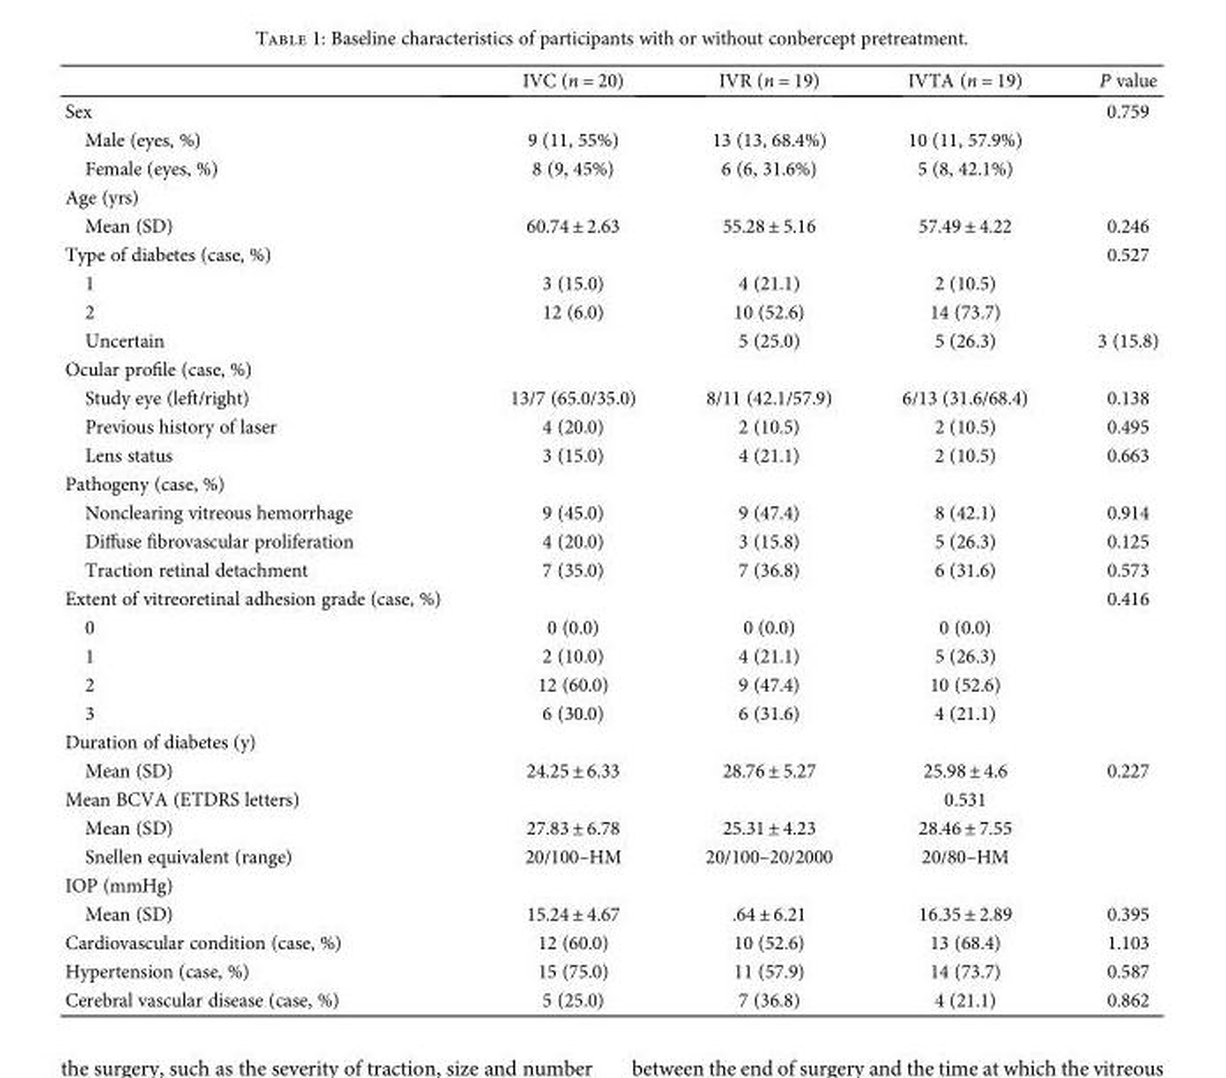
<table><thead><tr><td></td><td>IVC (n = 20)</td><td>IVR (n = 19)</td><td>IVTA (n = 19)</td><td>P value</td></tr></thead><tbody><tr><td>Sex</td><td></td><td></td><td></td><td>0.759</td></tr><tr><td>Male (eyes, %)</td><td>9 (11, 55%)</td><td>13 (13, 68.4%)</td><td>10 (11, 57.9%)</td><td></td></tr><tr><td>Female (eyes, %)</td><td>8 (9, 45%)</td><td>6 (6, 31.6%)</td><td>5 (8, 42.1%)</td><td></td></tr><tr><td colspan="5">Age (yrs)</td></tr><tr><td>Mean (SD)</td><td>60.74 ± 2.63</td><td>55.28 ± 5.16</td><td>57.49 ± 4.22</td><td>0.246</td></tr><tr><td>Type of diabetes (case, %)</td><td></td><td></td><td></td><td>0.527</td></tr><tr><td>1</td><td>3 (15.0)</td><td>4 (21.1)</td><td>2 (10.5)</td><td></td></tr><tr><td>2</td><td>12 (6.0)</td><td>10 (52.6)</td><td>14 (73.7)</td><td></td></tr><tr><td>Uncertain</td><td></td><td>5 (25.0)</td><td>5 (26.3)</td><td>3 (15.8)</td></tr><tr><td colspan="5">Ocular profile (case, %)</td></tr><tr><td>Study eye (left/right)</td><td>13/7 (65.0/35.0)</td><td>8/11 (42.1/57.9)</td><td>6/13 (31.6/68.4)</td><td>0.138</td></tr><tr><td>Previous history of laser</td><td>4 (20.0)</td><td>2 (10.5)</td><td>2 (10.5)</td><td>0.495</td></tr><tr><td>Lens status</td><td>3 (15.0)</td><td>4 (21.1)</td><td>2 (10.5)</td><td>0.663</td></tr><tr><td colspan="5">Pathogeny (case, %)</td></tr><tr><td>Nonclearing vitreous hemorrhage</td><td>9 (45.0)</td><td>9 (47.4)</td><td>8 (42.1)</td><td>0.914</td></tr><tr><td>Diffuse fibrovascular proliferation</td><td>4 (20.0)</td><td>3 (15.8)</td><td>5 (26.3)</td><td>0.125</td></tr><tr><td>Traction retinal detachment</td><td>7 (35.0)</td><td>7 (36.8)</td><td>6 (31.6)</td><td>0.573</td></tr><tr><td>Extent of vitreoretinal adhesion grade (case, %)</td><td></td><td></td><td></td><td>0.416</td></tr><tr><td>0</td><td>0 (0.0)</td><td>0 (0.0)</td><td>0 (0.0)</td><td></td></tr><tr><td>1</td><td>2 (10.0)</td><td>4 (21.1)</td><td>5 (26.3)</td><td></td></tr><tr><td>2</td><td>12 (60.0)</td><td>9 (47.4)</td><td>10 (52.6)</td><td></td></tr><tr><td>3</td><td>6 (30.0)</td><td>6 (31.6)</td><td>4 (21.1)</td><td></td></tr><tr><td colspan="5">Duration of diabetes (y)</td></tr><tr><td>Mean (SD)</td><td>24.25 ± 6.33</td><td>28.76 ± 5.27</td><td>25.98 ± 4.6</td><td>0.227</td></tr><tr><td>Mean BCVA (ETDRS letters)</td><td></td><td></td><td>0.531</td><td></td></tr><tr><td>Mean (SD)</td><td>27.83 ± 6.78</td><td>25.31 ± 4.23</td><td>28.46 ± 7.55</td><td></td></tr><tr><td>Snellen equivalent (range)</td><td>20/100–HM</td><td>20/100–20/2000</td><td>20/80–HM</td><td></td></tr><tr><td colspan="5">IOP (mmHg)</td></tr><tr><td>Mean (SD)</td><td>15.24 ± 4.67</td><td>.64 ± 6.21</td><td>16.35 ± 2.89</td><td>0.395</td></tr><tr><td>Cardiovascular condition (case, %)</td><td>12 (60.0)</td><td>10 (52.6)</td><td>13 (68.4)</td><td>1.103</td></tr><tr><td>Hypertension (case, %)</td><td>15 (75.0)</td><td>11 (57.9)</td><td>14 (73.7)</td><td>0.587</td></tr><tr><td>Cerebral vascular disease (case, %)</td><td>5 (25.0)</td><td>7 (36.8)</td><td>4 (21.1)</td><td>0.862</td></tr></tbody></table>